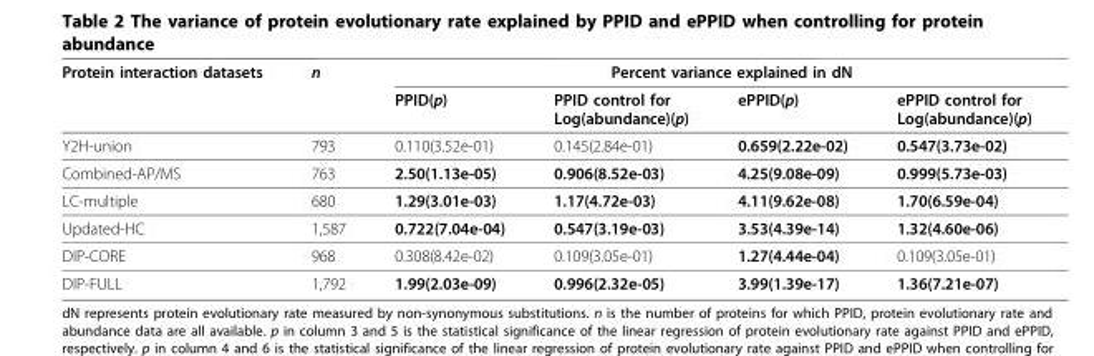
<table><thead><tr><td rowspan="2">Protein interaction datasets</td><td rowspan="2">n</td><td colspan="4">Percent variance explained in dN</td></tr><tr><td>PPID(p)</td><td>PPID control for Log(abundance)(p)</td><td>ePPID(p)</td><td>ePPID control for Log(abundance)(p)</td></tr></thead><tbody><tr><td>Y2H-union</td><td>793</td><td>0.110(3.52e-01)</td><td>0.145(2.84e-01)</td><td>0.659(2.22e-02)</td><td>0.547(3.73e-02)</td></tr><tr><td>Combined-AP/MS</td><td>763</td><td>2.50(1.13e-05)</td><td>0.906(8.52e-03)</td><td>4.25(9.08e-09)</td><td>0.999(5.73e-03)</td></tr><tr><td>LC-multiple</td><td>680</td><td>1.29(3.01e-03)</td><td>1.17(4.72e-03)</td><td>4.11(9.62e-08)</td><td>1.70(6.59e-04)</td></tr><tr><td>Updated-HC</td><td>1,587</td><td>0.722(7.04e-04)</td><td>0.547(3.19e-03)</td><td>3.53(4.39e-14)</td><td>1.32(4.60e-06)</td></tr><tr><td>DIP-CORE</td><td>968</td><td>0.308(8.42e-02)</td><td>0.109(3.05e-01)</td><td>1.27(4.44e-04)</td><td>0.109(3.05e-01)</td></tr><tr><td>DIP-FULL</td><td>1,792</td><td>1.99(2.03e-09)</td><td>0.996(2.32e-05)</td><td>3.99(1.39e-17)</td><td>1.36(7.21e-07)</td></tr></tbody></table>